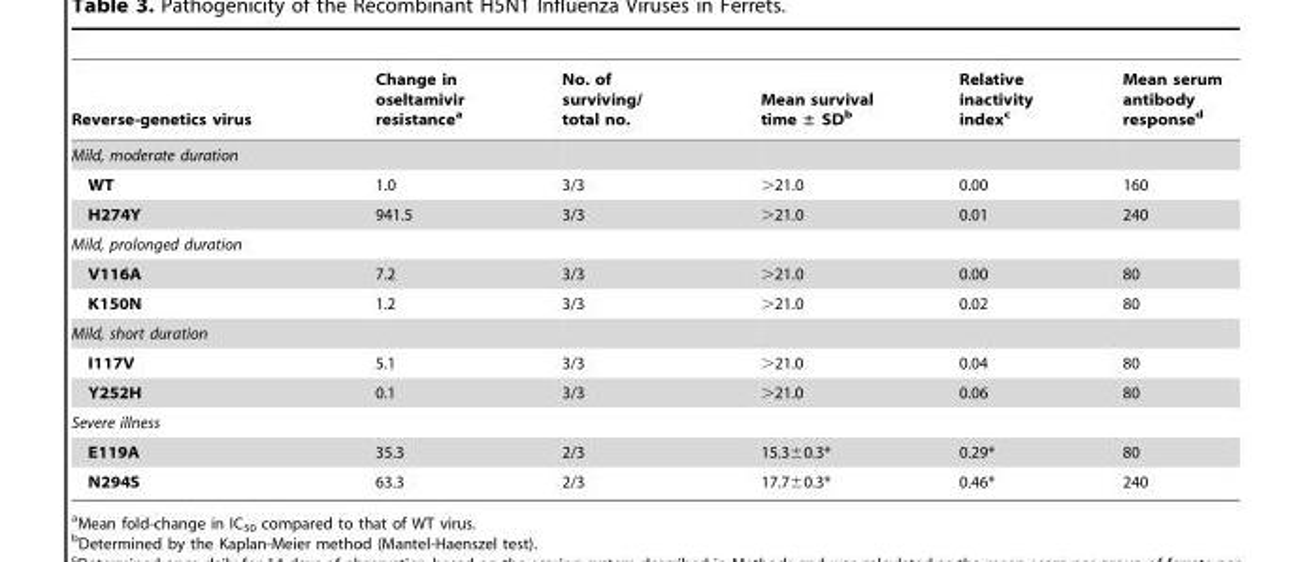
<table><thead><tr><td>Reverse-genetics virus</td><td>Change in oseltamivir resistance<sup>a</sup></td><td>No. of surviving/ total no.</td><td>Mean survival time ± SD<sup>b</sup></td><td>Relative inactivity index<sup>c</sup></td><td>Mean serum antibody response<sup>d</sup></td></tr></thead><tbody><tr><td colspan="6">Mild, moderate duration</td></tr><tr><td>WT</td><td>1.0</td><td>3/3</td><td>&gt;21.0</td><td>0.00</td><td>160</td></tr><tr><td>H274Y</td><td>941.5</td><td>3/3</td><td>&gt;21.0</td><td>0.01</td><td>240</td></tr><tr><td colspan="6">Mild, prolonged duration</td></tr><tr><td>V116A</td><td>7.2</td><td>3/3</td><td>&gt;21.0</td><td>0.00</td><td>80</td></tr><tr><td>K150N</td><td>1.2</td><td>3/3</td><td>&gt;21.0</td><td>0.02</td><td>80</td></tr><tr><td colspan="6">Mild, short duration</td></tr><tr><td>I117V</td><td>5.1</td><td>3/3</td><td>&gt;21.0</td><td>0.04</td><td>80</td></tr><tr><td>Y252H</td><td>0.1</td><td>3/3</td><td>&gt;21.0</td><td>0.06</td><td>80</td></tr><tr><td colspan="6">Severe illness</td></tr><tr><td>E119A</td><td>35.3</td><td>2/3</td><td>15.3±0.3*</td><td>0.29*</td><td>80</td></tr><tr><td>N294S</td><td>63.3</td><td>2/3</td><td>17.7±0.3*</td><td>0.46*</td><td>240</td></tr></tbody></table>